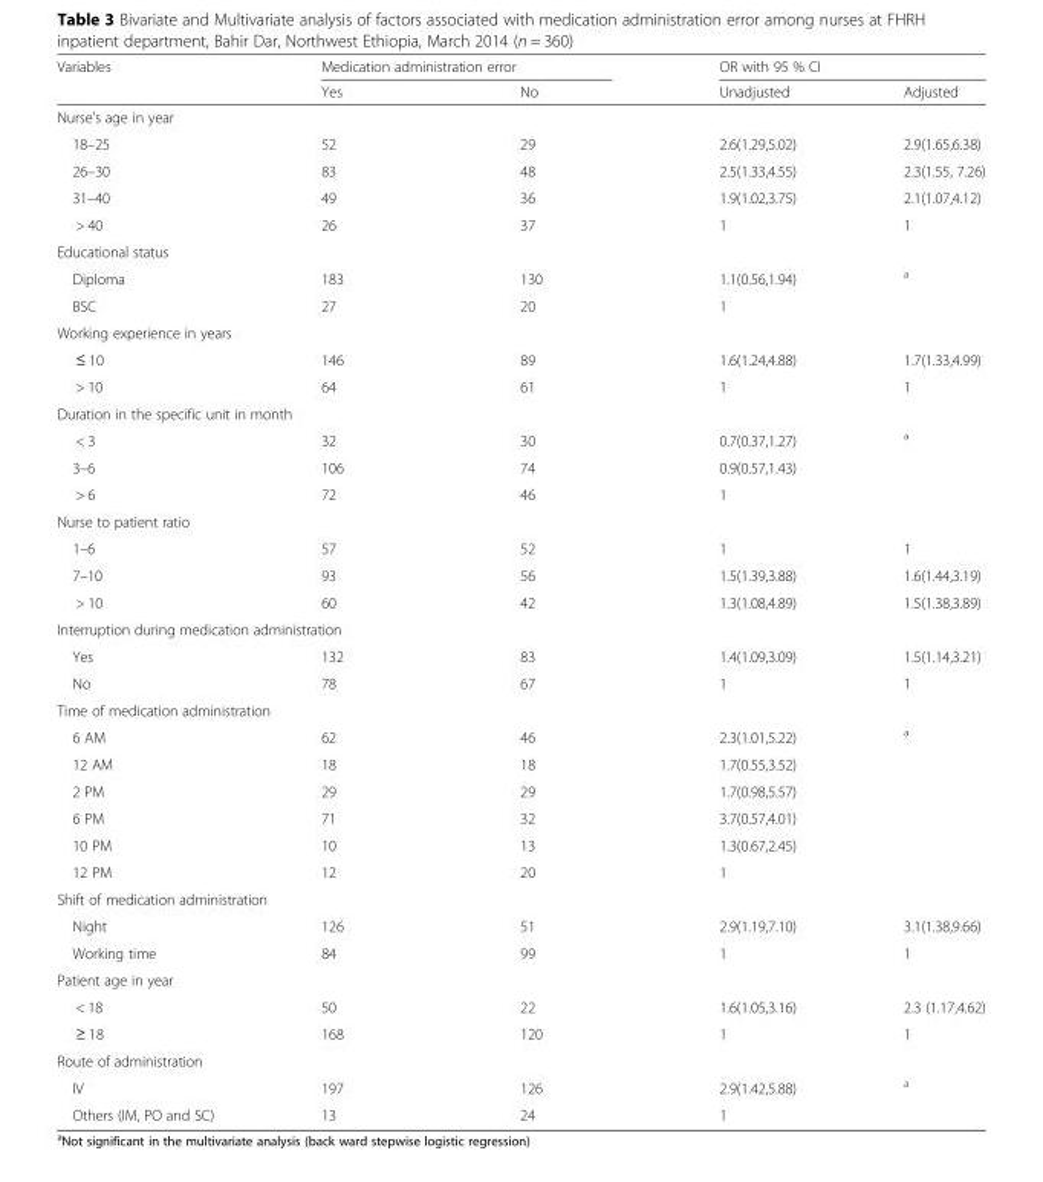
<table><thead><tr><td rowspan="2">Variables</td><td colspan="2">Medication administration error</td><td colspan="2">OR with 95 % CI</td></tr><tr><td>Yes</td><td>No</td><td>Unadjusted</td><td>Adjusted</td></tr></thead><tbody><tr><td colspan="5">Nurse’s age in year</td></tr><tr><td>18–25</td><td>52</td><td>29</td><td>2.6(1.29,5.02)</td><td>2.9(1.65,6.38)</td></tr><tr><td>26–30</td><td>83</td><td>48</td><td>2.5(1.33,4.55)</td><td>2.3(1.55, 7.26)</td></tr><tr><td>31–40</td><td>49</td><td>36</td><td>1.9(1.02,3.75)</td><td>2.1(1.07,4.12)</td></tr><tr><td>&gt; 40</td><td>26</td><td>37</td><td>1</td><td>1</td></tr><tr><td colspan="5">Educational status</td></tr><tr><td>Diploma</td><td>183</td><td>130</td><td>1.1(0.56,1.94)</td><td><sup>a</sup></td></tr><tr><td>BSC</td><td>27</td><td>20</td><td>1</td><td></td></tr><tr><td colspan="5">Working experience in years</td></tr><tr><td>≤ 10</td><td>146</td><td>89</td><td>1.6(1.24,4.88)</td><td>1.7(1.33,4.99)</td></tr><tr><td>&gt; 10</td><td>64</td><td>61</td><td>1</td><td>1</td></tr><tr><td colspan="5">Duration in the specific unit in month</td></tr><tr><td>&lt; 3</td><td>32</td><td>30</td><td>0.7(0.37,1.27)</td><td><sup>a</sup></td></tr><tr><td>3–6</td><td>106</td><td>74</td><td>0.9(0.57,1.43)</td><td></td></tr><tr><td>&gt; 6</td><td>72</td><td>46</td><td>1</td><td></td></tr><tr><td colspan="5">Nurse to patient ratio</td></tr><tr><td>1–6</td><td>57</td><td>52</td><td>1</td><td>1</td></tr><tr><td>7–10</td><td>93</td><td>56</td><td>1.5(1.39,3.88)</td><td>1.6(1.44,3.19)</td></tr><tr><td>&gt; 10</td><td>60</td><td>42</td><td>1.3(1.08,4.89)</td><td>1.5(1.38,3.89)</td></tr><tr><td colspan="5">Interruption during medication administration</td></tr><tr><td>Yes</td><td>132</td><td>83</td><td>1.4(1.09,3.09)</td><td>1.5(1.14,3.21)</td></tr><tr><td>No</td><td>78</td><td>67</td><td>1</td><td>1</td></tr><tr><td colspan="5">Time of medication administration</td></tr><tr><td>6 AM</td><td>62</td><td>46</td><td>2.3(1.01,5.22)</td><td><sup>a</sup></td></tr><tr><td>12 AM</td><td>18</td><td>18</td><td>1.7(0.55,3.52)</td><td></td></tr><tr><td>2 PM</td><td>29</td><td>29</td><td>1.7(0.98,5.57)</td><td></td></tr><tr><td>6 PM</td><td>71</td><td>32</td><td>3.7(0.57,4.01)</td><td></td></tr><tr><td>10 PM</td><td>10</td><td>13</td><td>1.3(0.67,2.45)</td><td></td></tr><tr><td>12 PM</td><td>12</td><td>20</td><td>1</td><td></td></tr><tr><td colspan="5">Shift of medication administration</td></tr><tr><td>Night</td><td>126</td><td>51</td><td>2.9(1.19,7.10)</td><td>3.1(1.38,9.66)</td></tr><tr><td>Working time</td><td>84</td><td>99</td><td>1</td><td>1</td></tr><tr><td colspan="5">Patient age in year</td></tr><tr><td>&lt; 18</td><td>50</td><td>22</td><td>1.6(1.05,3.16)</td><td>2.3 (1.17,4.62)</td></tr><tr><td>≥ 18</td><td>168</td><td>120</td><td>1</td><td>1</td></tr><tr><td colspan="5">Route of administration</td></tr><tr><td>IV</td><td>197</td><td>126</td><td>2.9(1.42,5.88)</td><td><sup>a</sup></td></tr><tr><td>Others (IM, PO and SC)</td><td>13</td><td>24</td><td>1</td><td></td></tr></tbody></table>